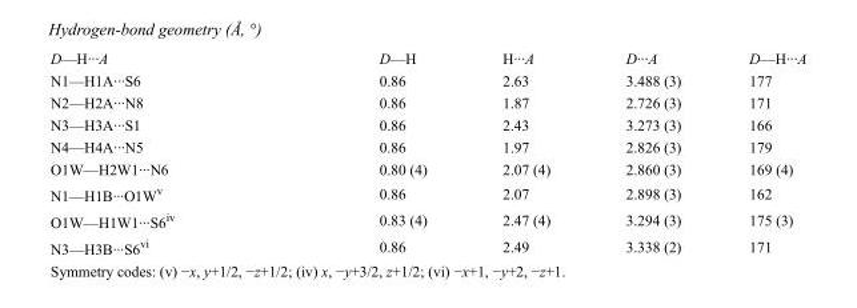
<table><tbody><tr><td>D—H···A</td><td>D—H</td><td>H···A</td><td>D···A</td><td>D—H···A</td></tr><tr><td>N1—H1A···S6</td><td>0.86</td><td>2.63</td><td>3.488 (3)</td><td>177</td></tr><tr><td>N2—H2A···N8</td><td>0.86</td><td>1.87</td><td>2.726 (3)</td><td>171</td></tr><tr><td>N3—H3A···S1</td><td>0.86</td><td>2.43</td><td>3.273 (3)</td><td>166</td></tr><tr><td>N4—H4A···N5</td><td>0.86</td><td>1.97</td><td>2.826 (3)</td><td>179</td></tr><tr><td>O1W—H2W1···N6</td><td>0.80 (4)</td><td>2.07 (4)</td><td>2.860 (3)</td><td>169 (4)</td></tr><tr><td>N1—H1B···O1W<sup>v</sup></td><td>0.86</td><td>2.07</td><td>2.898 (3)</td><td>162</td></tr><tr><td>O1W—H1W1···S6<sup>iv</sup></td><td>0.83 (4)</td><td>2.47 (4)</td><td>3.294 (3)</td><td>175 (3)</td></tr><tr><td>N3—H3B···S6<sup>vi</sup></td><td>0.86</td><td>2.49</td><td>3.338 (2)</td><td>171</td></tr></tbody></table>